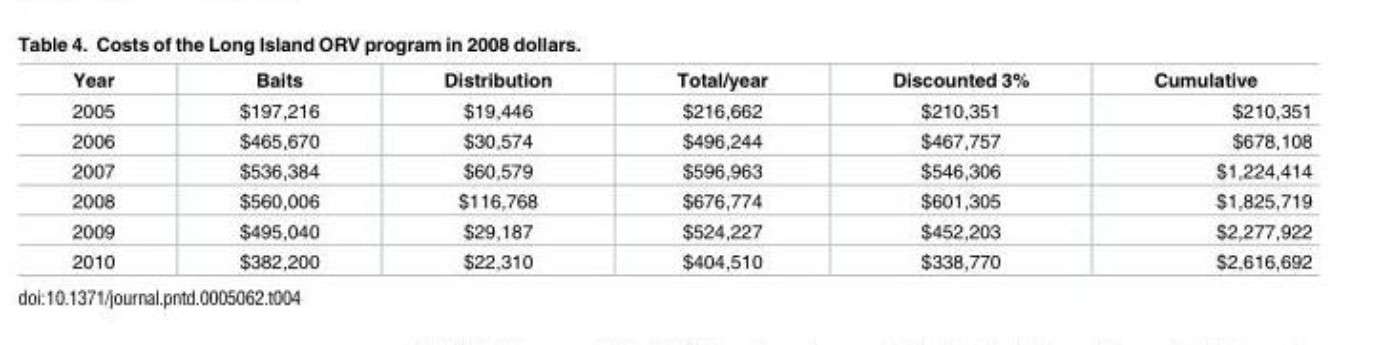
<table><thead><tr><td>Year</td><td>Baits</td><td>Distribution</td><td>Total/year</td><td>Discounted 3%</td><td>Cumulative</td></tr></thead><tbody><tr><td>2005</td><td>$197,216</td><td>$19,446</td><td>$216,662</td><td>$210,351</td><td>$210,351</td></tr><tr><td>2006</td><td>$465,670</td><td>$30,574</td><td>$496,244</td><td>$467,757</td><td>$678,108</td></tr><tr><td>2007</td><td>$536,384</td><td>$60,579</td><td>$596,963</td><td>$546,306</td><td>$1,224,414</td></tr><tr><td>2008</td><td>$560,006</td><td>$116,768</td><td>$676,774</td><td>$601,305</td><td>$1,825,719</td></tr><tr><td>2009</td><td>$495,040</td><td>$29,187</td><td>$524,227</td><td>$452,203</td><td>$2,277,922</td></tr><tr><td>2010</td><td>$382,200</td><td>$22,310</td><td>$404,510</td><td>$338,770</td><td>$2,616,692</td></tr></tbody></table>